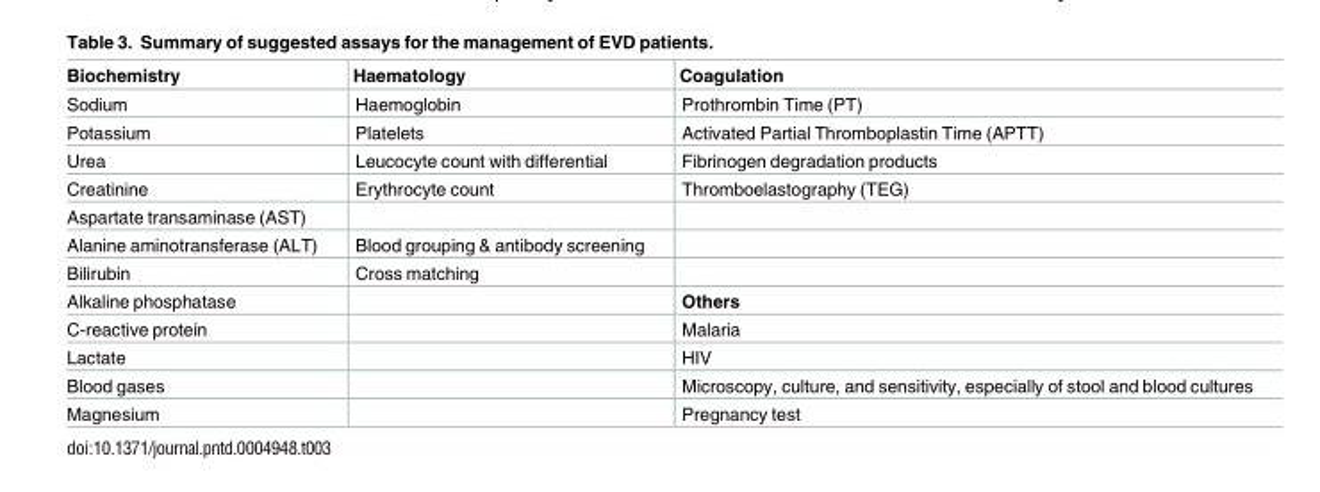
<table><thead><tr><td>Biochemistry</td><td>Haematology</td><td>Coagulation</td></tr></thead><tbody><tr><td>Sodium</td><td>Haemoglobin</td><td>Prothrombin Time (PT)</td></tr><tr><td>Potassium</td><td>Platelets</td><td>Activated Partial Thromboplastin Time (APTT)</td></tr><tr><td>Urea</td><td>Leucocyte count with differential</td><td>Fibrinogen degradation products</td></tr><tr><td>Creatinine</td><td>Erythrocyte count</td><td>Thromboelastography (TEG)</td></tr><tr><td colspan="3">Aspartate transaminase (AST)</td></tr><tr><td>Alanine aminotransferase (ALT)</td><td>Blood grouping &amp; antibody screening</td><td></td></tr><tr><td>Bilirubin</td><td>Cross matching</td><td></td></tr><tr><td>Alkaline phosphatase</td><td></td><td>Others</td></tr><tr><td>C-reactive protein</td><td></td><td>Malaria</td></tr><tr><td>Lactate</td><td></td><td>HIV</td></tr><tr><td>Blood gases</td><td></td><td>Microscopy, culture, and sensitivity, especially of stool and blood cultures</td></tr><tr><td>Magnesium</td><td></td><td>Pregnancy test</td></tr></tbody></table>